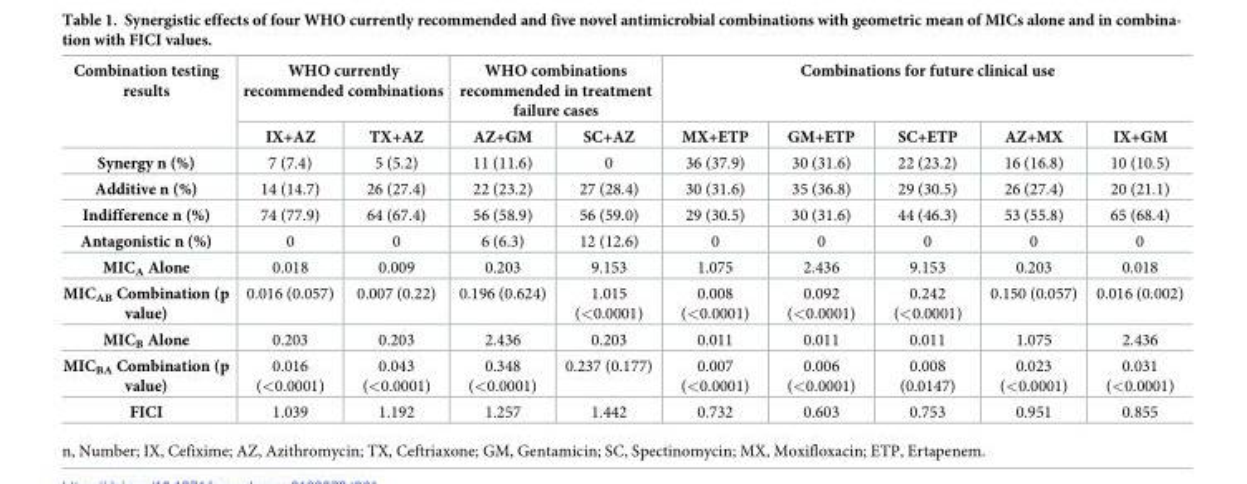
<table><thead><tr><td rowspan="2">Combination testing results</td><td colspan="2">WHO currently recommended combinations</td><td colspan="2">WHO combinations recommended in treatment failure cases</td><td colspan="5">Combinations for future clinical use</td></tr><tr><td>IX+AZ</td><td>TX+AZ</td><td>AZ+GM</td><td>SC+AZ</td><td>MX+ETP</td><td>GM+ETP</td><td>SC+ETP</td><td>AZ+MX</td><td>IX+GM</td></tr></thead><tbody><tr><td>Synergy n (%)</td><td>7 (7.4)</td><td>5 (5.2)</td><td>11 (11.6)</td><td>0</td><td>36 (37.9)</td><td>30 (31.6)</td><td>22 (23.2)</td><td>16 (16.8)</td><td>10 (10.5)</td></tr><tr><td>Additive n (%)</td><td>14 (14.7)</td><td>26 (27.4)</td><td>22 (23.2)</td><td>27 (28.4)</td><td>30 (31.6)</td><td>35 (36.8)</td><td>29 (30.5)</td><td>26 (27.4)</td><td>20 (21.1)</td></tr><tr><td>Indifference n (%)</td><td>74 (77.9)</td><td>64 (67.4)</td><td>56 (58.9)</td><td>56 (59.0)</td><td>29 (30.5)</td><td>30 (31.6)</td><td>44 (46.3)</td><td>53 (55.8)</td><td>65 (68.4)</td></tr><tr><td>Antagonistic n (%)</td><td>0</td><td>0</td><td>6 (6.3)</td><td>12 (12.6)</td><td>0</td><td>0</td><td>0</td><td>0</td><td>0</td></tr><tr><td>MIC<sub>A</sub> Alone</td><td>0.018</td><td>0.009</td><td>0.203</td><td>9.153</td><td>1.075</td><td>2.436</td><td>9.153</td><td>0.203</td><td>0.018</td></tr><tr><td>MIC<sub>AB</sub> Combination (p value)</td><td>0.016 (0.057)</td><td>0.007 (0.22)</td><td>0.196 (0.624)</td><td>1.015 (&lt;0.0001)</td><td>0.008 (&lt;0.0001)</td><td>0.092 (&lt;0.0001)</td><td>0.242 (&lt;0.0001)</td><td>0.150 (0.057)</td><td>0.016 (0.002)</td></tr><tr><td>MIC<sub>B</sub> Alone</td><td>0.203</td><td>0.203</td><td>2.436</td><td>0.203</td><td>0.011</td><td>0.011</td><td>0.011</td><td>1.075</td><td>2.436</td></tr><tr><td>MIC<sub>BA</sub> Combination (p value)</td><td>0.016 (&lt;0.0001)</td><td>0.043 (&lt;0.0001)</td><td>0.348 (&lt;0.0001)</td><td>0.237 (0.177)</td><td>0.007 (&lt;0.0001)</td><td>0.006 (&lt;0.0001)</td><td>0.008 (0.0147)</td><td>0.023 (&lt;0.0001)</td><td>0.031 (&lt;0.0001)</td></tr><tr><td>FICI</td><td>1.039</td><td>1.192</td><td>1.257</td><td>1.442</td><td>0.732</td><td>0.603</td><td>0.753</td><td>0.951</td><td>0.855</td></tr></tbody></table>